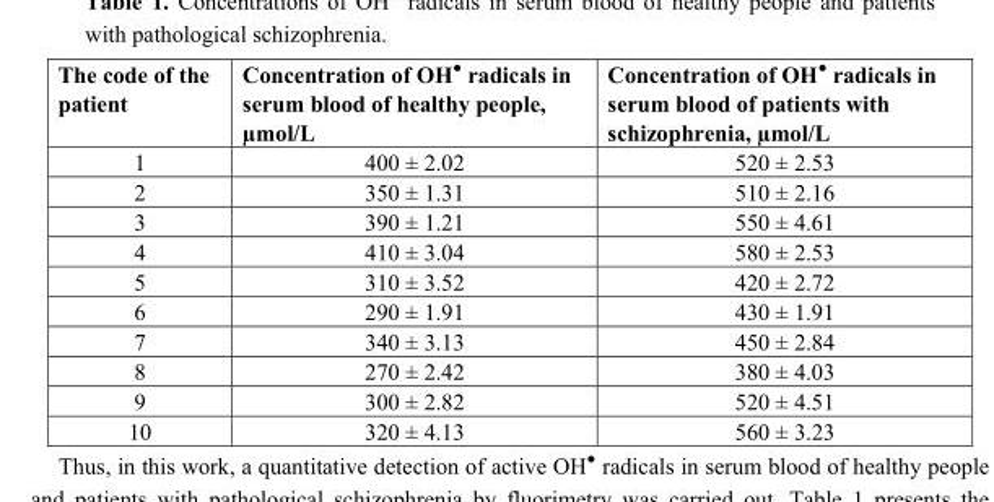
<table><thead><tr><td>The code of the patient</td><td>Concentration of OH● radicals in serum blood of healthy people, µmol/L</td><td>Concentration of OH● radicals in serum blood of patients with schizophrenia, µmol/L</td></tr></thead><tbody><tr><td>1</td><td>400 ± 2.02</td><td>520 ± 2.53</td></tr><tr><td>2</td><td>350 ± 1.31</td><td>510 ± 2.16</td></tr><tr><td>3</td><td>390 ± 1.21</td><td>550 ± 4.61</td></tr><tr><td>4</td><td>410 ± 3.04</td><td>580 ± 2.53</td></tr><tr><td>5</td><td>310 ± 3.52</td><td>420 ± 2.72</td></tr><tr><td>6</td><td>290 ± 1.91</td><td>430 ± 1.91</td></tr><tr><td>7</td><td>340 ± 3.13</td><td>450 ± 2.84</td></tr><tr><td>8</td><td>270 ± 2.42</td><td>380 ± 4.03</td></tr><tr><td>9</td><td>300 ± 2.82</td><td>520 ± 4.51</td></tr><tr><td>10</td><td>320 ± 4.13</td><td>560 ± 3.23</td></tr></tbody></table>